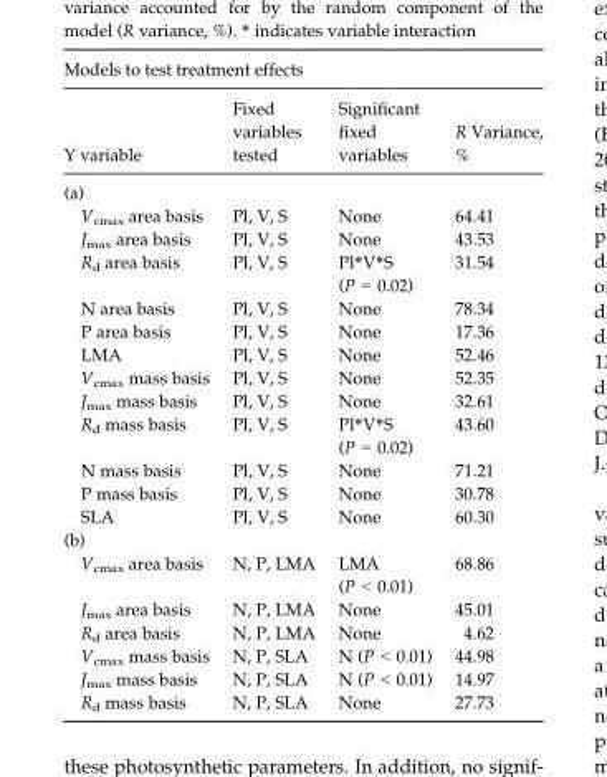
<table><thead><tr><td colspan="4">Models to test treatment effects</td></tr><tr><td>Y variable</td><td>Fixed variables tested</td><td>Significant fixed variables</td><td>R Variance, %</td></tr></thead><tbody><tr><td colspan="4">(a)</td></tr><tr><td>V<sub>cmax</sub> area basis</td><td>Pl, V, S</td><td>None</td><td>64.41</td></tr><tr><td>J<sub>max</sub> area basis</td><td>Pl, V, S</td><td>None</td><td>43.53</td></tr><tr><td>R<sub>d</sub> area basis</td><td>Pl, V, S</td><td>Pl*V*S (P = 0.02)</td><td>31.54</td></tr><tr><td>N area basis</td><td>Pl, V, S</td><td>None</td><td>78.34</td></tr><tr><td>P area basis</td><td>Pl, V, S</td><td>None</td><td>17.36</td></tr><tr><td>LMA</td><td>Pl, V, S</td><td>None</td><td>52.46</td></tr><tr><td>V<sub>cmax</sub> mass basis</td><td>Pl, V, S</td><td>None</td><td>52.35</td></tr><tr><td>J<sub>max</sub> mass basis</td><td>Pl, V, S</td><td>None</td><td>32.61</td></tr><tr><td>R<sub>d</sub> mass basis</td><td>Pl, V, S</td><td>Pl*V*S (P = 0.02)</td><td>43.60</td></tr><tr><td>N mass basis</td><td>Pl, V, S</td><td>None</td><td>71.21</td></tr><tr><td>P mass basis</td><td>Pl, V, S</td><td>None</td><td>30.78</td></tr><tr><td>SLA</td><td>Pl, V, S</td><td>None</td><td>60.30</td></tr><tr><td colspan="4">(b)</td></tr><tr><td>V<sub>cmax</sub> area basis</td><td>N, P, LMA</td><td>LMA (P &lt; 0.01)</td><td>68.86</td></tr><tr><td>J<sub>max</sub> area basis</td><td>N, P, LMA</td><td>None</td><td>45.01</td></tr><tr><td>R<sub>d</sub> area basis</td><td>N, P, LMA</td><td>None</td><td>4.62</td></tr><tr><td>V<sub>cmax</sub> mass basis</td><td>N, P, SLA</td><td>N (P &lt; 0.01)</td><td>44.98</td></tr><tr><td>J<sub>max</sub> mass basis</td><td>N, P, SLA</td><td>N (P &lt; 0.01)</td><td>14.97</td></tr><tr><td>R<sub>d</sub> mass basis</td><td>N, P, SLA</td><td>None</td><td>27.73</td></tr></tbody></table>